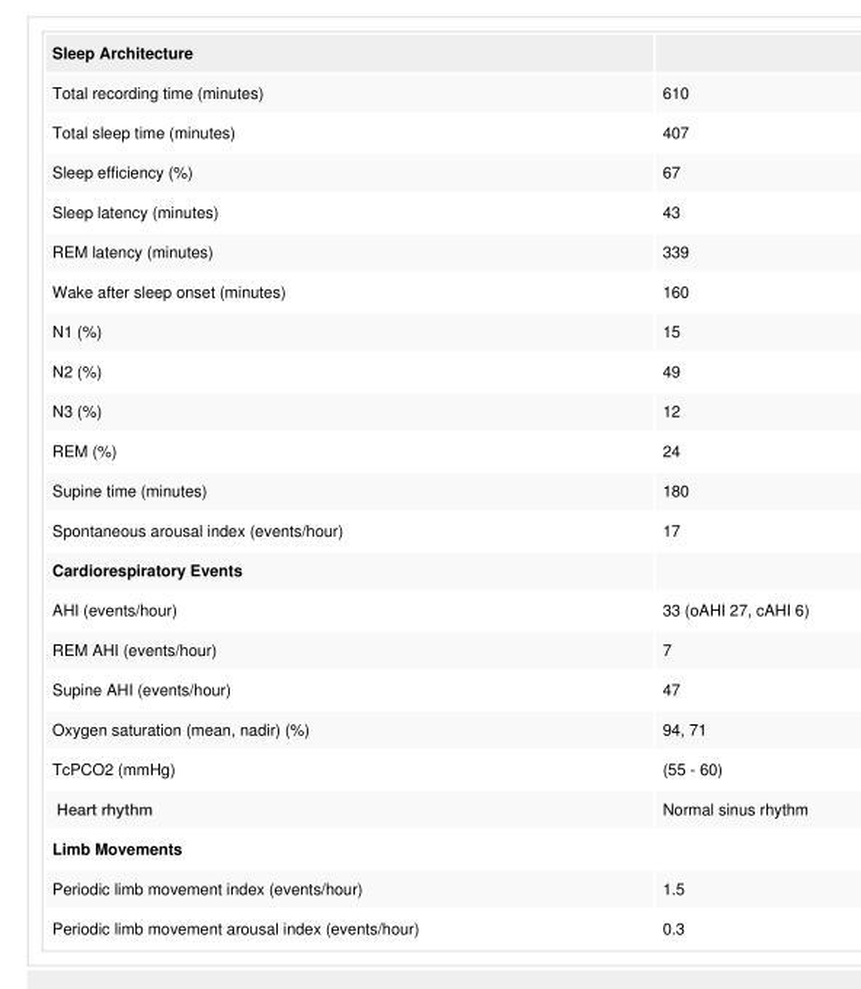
<table><tbody><tr><td colspan="2">Sleep Architecture</td></tr><tr><td>Total recording time (minutes)</td><td>610</td></tr><tr><td>Total sleep time (minutes)</td><td>407</td></tr><tr><td>Sleep efficiency (%)</td><td>67</td></tr><tr><td>Sleep latency (minutes)</td><td>43</td></tr><tr><td>REM latency (minutes)</td><td>339</td></tr><tr><td>Wake after sleep onset (minutes)</td><td>160</td></tr><tr><td>N1 (%)</td><td>15</td></tr><tr><td>N2 (%)</td><td>49</td></tr><tr><td>N3 (%)</td><td>12</td></tr><tr><td>REM (%)</td><td>24</td></tr><tr><td>Supine time (minutes)</td><td>180</td></tr><tr><td>Spontaneous arousal index (events/hour)</td><td>17</td></tr><tr><td colspan="2">Cardiorespiratory Events</td></tr><tr><td>AHI (events/hour)</td><td>33 (oAHI 27, cAHI 6)</td></tr><tr><td>REM AHI (events/hour)</td><td>7</td></tr><tr><td>Supine AHI (events/hour)</td><td>47</td></tr><tr><td>Oxygen saturation (mean, nadir) (%)</td><td>94, 71</td></tr><tr><td>TcPCO2 (mmHg)</td><td>(55 - 60)</td></tr><tr><td>Heart rhythm</td><td>Normal sinus rhythm</td></tr><tr><td colspan="2">Limb Movements</td></tr><tr><td>Periodic limb movement index (events/hour)</td><td>1.5</td></tr><tr><td>Periodic limb movement arousal index (events/hour)</td><td>0.3</td></tr></tbody></table>